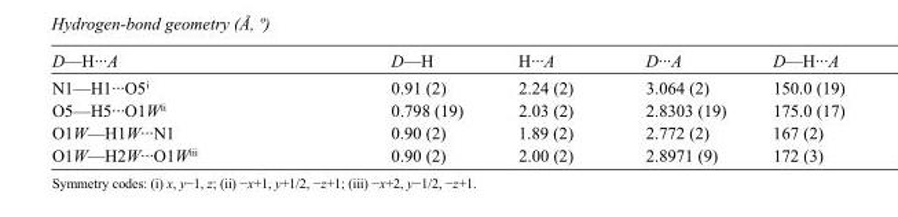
<table><tbody><tr><td>D—H···A</td><td>D—H</td><td>H···A</td><td>D···A</td><td>D—H···A</td></tr><tr><td>N1—H1···O5<sup>i</sup></td><td>0.91 (2)</td><td>2.24 (2)</td><td>3.064 (2)</td><td>150.0 (19)</td></tr><tr><td>O5—H5···O1W<sup>ii</sup></td><td>0.798 (19)</td><td>2.03 (2)</td><td>2.8303 (19)</td><td>175.0 (17)</td></tr><tr><td>O1W—H1W···N1</td><td>0.90 (2)</td><td>1.89 (2)</td><td>2.772 (2)</td><td>167 (2)</td></tr><tr><td>O1W—H2W···O1W<sup>iii</sup></td><td>0.90 (2)</td><td>2.00 (2)</td><td>2.8971 (9)</td><td>172 (3)</td></tr></tbody></table>